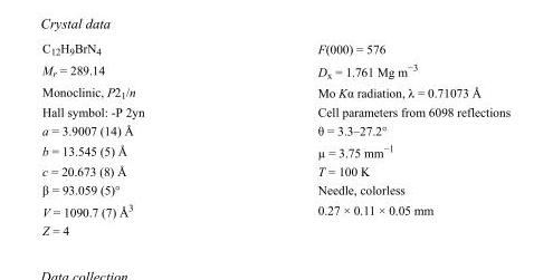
<table><tbody><tr><td>C<sub>12</sub>H<sub>9</sub>BrN<sub>4</sub></td><td>F(000) = 576</td></tr><tr><td>M<sub>r</sub> = 289.14</td><td>D<sub>x</sub> = 1.761 Mg m<sup>−3</sup></td></tr><tr><td>Monoclinic, P2<sub>1</sub>/n</td><td>Mo Kα radiation, λ = 0.71073 Å</td></tr><tr><td>Hall symbol: -P 2yn</td><td>Cell parameters from 6098 reflections</td></tr><tr><td>a = 3.9007 (14) Å</td><td>θ = 3.3–27.2°</td></tr><tr><td>b = 13.545 (5) Å</td><td>µ = 3.75 mm<sup>−1</sup></td></tr><tr><td>c = 20.673 (8) Å</td><td>T = 100 K</td></tr><tr><td>β = 93.059 (5)°</td><td>Needle, colorless</td></tr><tr><td>V = 1090.7 (7) Å<sup>3</sup></td><td>0.27 × 0.11 × 0.05 mm</td></tr><tr><td>Z = 4</td><td></td></tr></tbody></table>